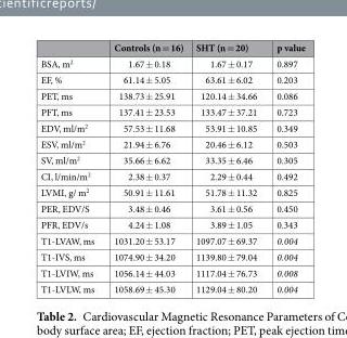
<table><thead><tr><td></td><td>Controls (n = 16)</td><td>SHT (n = 20)</td><td>p value</td></tr></thead><tbody><tr><td>BSA, m<sup>2</sup></td><td>1.67 ± 0.18</td><td>1.67 ± 0.17</td><td>0.897</td></tr><tr><td>EF, %</td><td>61.14 ± 5.05</td><td>63.61 ± 6.02</td><td>0.203</td></tr><tr><td>PET, ms</td><td>138.73 ± 25.91</td><td>120.14 ± 34.66</td><td>0.086</td></tr><tr><td>PFT, ms</td><td>137.41 ± 23.53</td><td>133.47 ± 37.21</td><td>0.723</td></tr><tr><td>EDV, ml/m<sup>2</sup></td><td>57.53 ± 11.68</td><td>53.91 ± 10.85</td><td>0.349</td></tr><tr><td>ESV, ml/m<sup>2</sup></td><td>21.94 ± 6.76</td><td>20.46 ± 6.12</td><td>0.503</td></tr><tr><td>SV, ml/m<sup>2</sup></td><td>35.66 ± 6.62</td><td>33.35 ± 6.46</td><td>0.305</td></tr><tr><td>CI, l/min/m<sup>2</sup></td><td>2.38 ± 0.37</td><td>2.29 ± 0.44</td><td>0.492</td></tr><tr><td>LVMI, g/ m<sup>2</sup></td><td>50.91 ± 11.61</td><td>51.78 ± 11.32</td><td>0.825</td></tr><tr><td>PER, EDV/S</td><td>3.48 ± 0.46</td><td>3.61 ± 0.56</td><td>0.450</td></tr><tr><td>PFR, EDV/s</td><td>4.24 ± 1.08</td><td>3.89 ± 1.05</td><td>0.343</td></tr><tr><td>T1-LVAW, ms</td><td>1031.20 ± 53.17</td><td>1097.07 ± 69.37</td><td>0.004</td></tr><tr><td>T1-IVS, ms</td><td>1074.90 ± 34.20</td><td>1139.80 ± 79.04</td><td>0.004</td></tr><tr><td>T1-LVIW, ms</td><td>1056.14 ± 44.03</td><td>1117.04 ± 76.73</td><td>0.008</td></tr><tr><td>T1-LVLW, ms</td><td>1058.69 ± 45.30</td><td>1129.04 ± 80.20</td><td>0.004</td></tr></tbody></table>